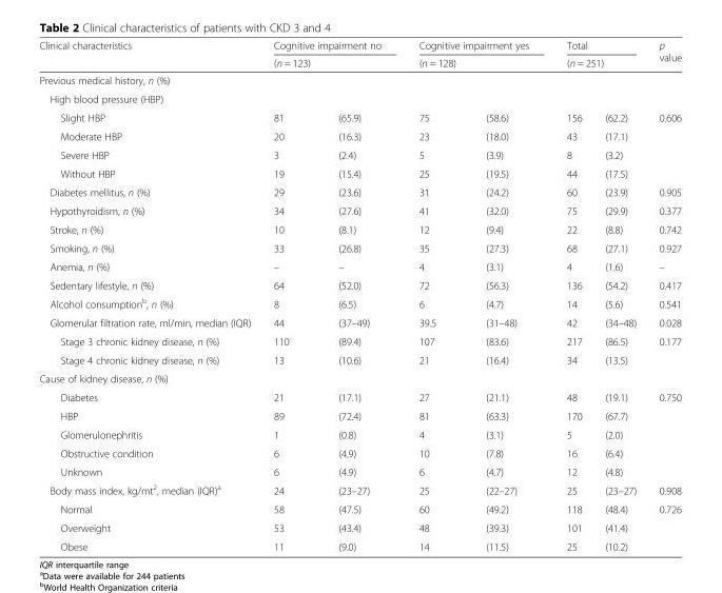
<table><thead><tr><td rowspan="3">Clinical characteristics Previous medical history, n (%)</td><td rowspan="2" colspan="2">Cognitive impairment no (n = 123)</td><td rowspan="2" colspan="2">Cognitive impairment yes (n = 128)</td><td rowspan="2" colspan="2">Total (n = 251)</td><td rowspan="3">p value</td></tr><tr></tr><tr><td></td><td></td><td></td><td></td><td></td><td></td></tr></thead><tbody><tr><td colspan="8">High blood pressure (HBP)</td></tr><tr><td>Slight HBP</td><td>81</td><td>(65.9)</td><td>75</td><td>(58.6)</td><td>156</td><td>(62.2)</td><td rowspan="4">0.606</td></tr><tr><td>Moderate HBP</td><td>20</td><td>(16.3)</td><td>23</td><td>(18.0)</td><td>43</td><td>(17.1)</td></tr><tr><td>Severe HBP</td><td>3</td><td>(2.4)</td><td>5</td><td>(3.9)</td><td>8</td><td>(3.2)</td></tr><tr><td>Without HBP</td><td>19</td><td>(15.4)</td><td>25</td><td>(19.5)</td><td>44</td><td>(17.5)</td></tr><tr><td>Diabetes mellitus, n (%)</td><td>29</td><td>(23.6)</td><td>31</td><td>(24.2)</td><td>60</td><td>(23.9)</td><td>0.905</td></tr><tr><td>Hypothyroidism, n (%)</td><td>34</td><td>(27.6)</td><td>41</td><td>(32.0)</td><td>75</td><td>(29.9)</td><td>0.377</td></tr><tr><td>Stroke, n (%)</td><td>10</td><td>(8.1)</td><td>12</td><td>(9.4)</td><td>22</td><td>(8.8)</td><td>0.742</td></tr><tr><td>Smoking, n (%)</td><td>33</td><td>(26.8)</td><td>35</td><td>(27.3)</td><td>68</td><td>(27.1)</td><td>0.927</td></tr><tr><td>Anemia, n (%)</td><td>–</td><td>–</td><td>4</td><td>(3.1)</td><td>4</td><td>(1.6)</td><td>–</td></tr><tr><td>Sedentary lifestyle, n (%)</td><td>64</td><td>(52.0)</td><td>72</td><td>(56.3)</td><td>136</td><td>(54.2)</td><td>0.417</td></tr><tr><td>Alcohol consumption<sup>b</sup>, n (%)</td><td>8</td><td>(6.5)</td><td>6</td><td>(4.7)</td><td>14</td><td>(5.6)</td><td>0.541</td></tr><tr><td>Glomerular filtration rate, ml/min, median (IQR)</td><td>44</td><td>(37–49)</td><td>39.5</td><td>(31–48)</td><td>42</td><td>(34–48)</td><td>0.028</td></tr><tr><td>Stage 3 chronic kidney disease, n (%)</td><td>110</td><td>(89.4)</td><td>107</td><td>(83.6)</td><td>217</td><td>(86.5)</td><td rowspan="2">0.177</td></tr><tr><td>Stage 4 chronic kidney disease, n (%)</td><td>13</td><td>(10.6)</td><td>21</td><td>(16.4)</td><td>34</td><td>(13.5)</td></tr><tr><td colspan="8">Cause of kidney disease, n (%)</td></tr><tr><td>Diabetes</td><td>21</td><td>(17.1)</td><td>27</td><td>(21.1)</td><td>48</td><td>(19.1)</td><td rowspan="5">0.750</td></tr><tr><td>HBP</td><td>89</td><td>(72.4)</td><td>81</td><td>(63.3)</td><td>170</td><td>(67.7)</td></tr><tr><td>Glomerulonephritis</td><td>1</td><td>(0.8)</td><td>4</td><td>(3.1)</td><td>5</td><td>(2.0)</td></tr><tr><td>Obstructive condition</td><td>6</td><td>(4.9)</td><td>10</td><td>(7.8)</td><td>16</td><td>(6.4)</td></tr><tr><td>Unknown</td><td>6</td><td>(4.9)</td><td>6</td><td>(4.7)</td><td>12</td><td>(4.8)</td></tr><tr><td>Body mass index, kg/mt<sup>2</sup>, median (IQR)<sup>a</sup></td><td>24</td><td>(23–27)</td><td>25</td><td>(22–27)</td><td>25</td><td>(23–27)</td><td>0.908</td></tr><tr><td>Normal</td><td>58</td><td>(47.5)</td><td>60</td><td>(49.2)</td><td>118</td><td>(48.4)</td><td rowspan="3">0.726</td></tr><tr><td>Overweight</td><td>53</td><td>(43.4)</td><td>48</td><td>(39.3)</td><td>101</td><td>(41.4)</td></tr><tr><td>Obese</td><td>11</td><td>(9.0)</td><td>14</td><td>(11.5)</td><td>25</td><td>(10.2)</td></tr></tbody></table>